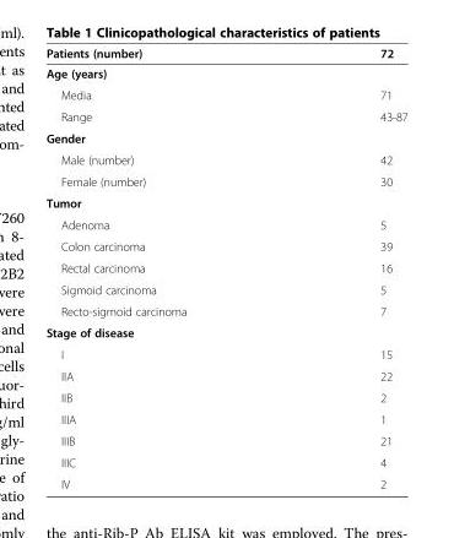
<table><thead><tr><td>Patients (number)</td><td>72</td></tr></thead><tbody><tr><td colspan="2">Age (years)</td></tr><tr><td>Media</td><td>71</td></tr><tr><td>Range</td><td>43-87</td></tr><tr><td colspan="2">Gender</td></tr><tr><td>Male (number)</td><td>42</td></tr><tr><td>Female (number)</td><td>30</td></tr><tr><td colspan="2">Tumor</td></tr><tr><td>Adenoma</td><td>5</td></tr><tr><td>Colon carcinoma</td><td>39</td></tr><tr><td>Rectal carcinoma</td><td>16</td></tr><tr><td>Sigmoid carcinoma</td><td>5</td></tr><tr><td>Recto-sigmoid carcinoma</td><td>7</td></tr><tr><td colspan="2">Stage of disease</td></tr><tr><td>I</td><td>15</td></tr><tr><td>IIA</td><td>22</td></tr><tr><td>IIB</td><td>2</td></tr><tr><td>IIIA</td><td>1</td></tr><tr><td>IIIB</td><td>21</td></tr><tr><td>IIIC</td><td>4</td></tr><tr><td>IV</td><td>2</td></tr></tbody></table>